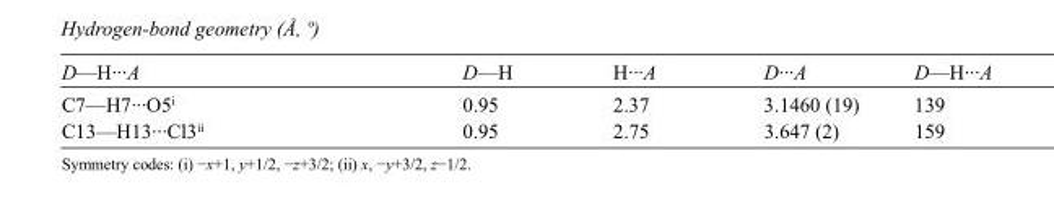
<table><tbody><tr><td>D—H···A</td><td>D—H</td><td>H···A</td><td>D···A</td><td>D—H···A</td></tr><tr><td>C7—H7···O5<sup>i</sup></td><td>0.95</td><td>2.37</td><td>3.1460 (19)</td><td>139</td></tr><tr><td>C13—H13···Cl3<sup>ii</sup></td><td>0.95</td><td>2.75</td><td>3.647 (2)</td><td>159</td></tr></tbody></table>